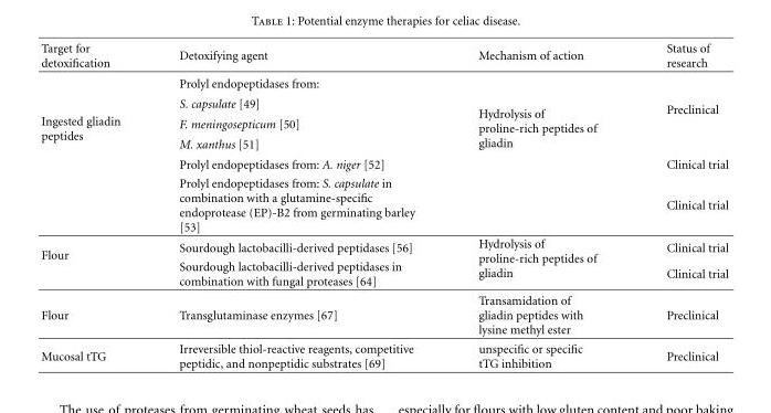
<table><thead><tr><td>Target for detoxification</td><td>Detoxifying agent</td><td>Mechanism of action</td><td>Status of research</td></tr></thead><tbody><tr><td rowspan="6">Ingested gliadin peptides</td><td>Prolyl endopeptidases from:</td><td rowspan="6">Hydrolysis of proline-rich peptides of gliadin</td><td rowspan="4">Preclinical</td></tr><tr><td>S. capsulate [49]</td></tr><tr><td>F. meningosepticum [50]</td></tr><tr><td>M. xanthus [51]</td></tr><tr><td>Prolyl endopeptidases from: A. niger [52]</td><td>Clinical trial</td></tr><tr><td>Prolyl endopeptidases from: S. capsulate in combination with a glutamine-specific endoprotease (EP)-B2 from germinating barley [53]</td><td>Clinical trial</td></tr><tr><td rowspan="2">Flour</td><td>Sourdough lactobacilli-derived peptidases [56]</td><td rowspan="2">Hydrolysis of proline-rich peptides of gliadin</td><td>Clinical trial</td></tr><tr><td>Sourdough lactobacilli-derived peptidases in combination with fungal proteases [64]</td><td>Clinical trial</td></tr><tr><td>Flour</td><td>Transglutaminase enzymes [67]</td><td>Transamidation of gliadin peptides with lysine methyl ester</td><td>Preclinical</td></tr><tr><td>Mucosal tTG</td><td>Irreversible thiol-reactive reagents, competitive peptidic, and nonpeptidic substrates [69]</td><td>unspecific or specific tTG inhibition</td><td>Preclinical</td></tr></tbody></table>